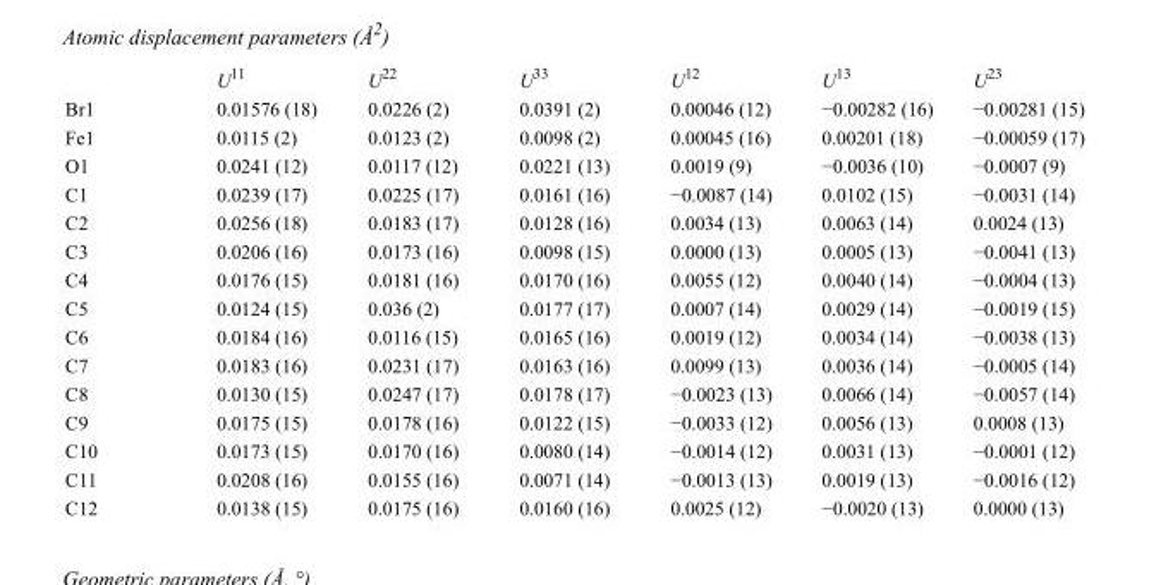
<table><thead><tr><td></td><td>U<sup>11</sup></td><td>U<sup>22</sup></td><td>U<sup>33</sup></td><td>U<sup>12</sup></td><td>U<sup>13</sup></td><td>U<sup>23</sup></td></tr></thead><tbody><tr><td>Br1</td><td>0.01576 (18)</td><td>0.0226 (2)</td><td>0.0391 (2)</td><td>0.00046 (12)</td><td>−0.00282 (16)</td><td>−0.00281 (15)</td></tr><tr><td>Fe1</td><td>0.0115 (2)</td><td>0.0123 (2)</td><td>0.0098 (2)</td><td>0.00045 (16)</td><td>0.00201 (18)</td><td>−0.00059 (17)</td></tr><tr><td>O1</td><td>0.0241 (12)</td><td>0.0117 (12)</td><td>0.0221 (13)</td><td>0.0019 (9)</td><td>−0.0036 (10)</td><td>−0.0007 (9)</td></tr><tr><td>C1</td><td>0.0239 (17)</td><td>0.0225 (17)</td><td>0.0161 (16)</td><td>−0.0087 (14)</td><td>0.0102 (15)</td><td>−0.0031 (14)</td></tr><tr><td>C2</td><td>0.0256 (18)</td><td>0.0183 (17)</td><td>0.0128 (16)</td><td>0.0034 (13)</td><td>0.0063 (14)</td><td>0.0024 (13)</td></tr><tr><td>C3</td><td>0.0206 (16)</td><td>0.0173 (16)</td><td>0.0098 (15)</td><td>0.0000 (13)</td><td>0.0005 (13)</td><td>−0.0041 (13)</td></tr><tr><td>C4</td><td>0.0176 (15)</td><td>0.0181 (16)</td><td>0.0170 (16)</td><td>0.0055 (12)</td><td>0.0040 (14)</td><td>−0.0004 (13)</td></tr><tr><td>C5</td><td>0.0124 (15)</td><td>0.036 (2)</td><td>0.0177 (17)</td><td>0.0007 (14)</td><td>0.0029 (14)</td><td>−0.0019 (15)</td></tr><tr><td>C6</td><td>0.0184 (16)</td><td>0.0116 (15)</td><td>0.0165 (16)</td><td>0.0019 (12)</td><td>0.0034 (14)</td><td>−0.0038 (13)</td></tr><tr><td>C7</td><td>0.0183 (16)</td><td>0.0231 (17)</td><td>0.0163 (16)</td><td>0.0099 (13)</td><td>0.0036 (14)</td><td>−0.0005 (14)</td></tr><tr><td>C8</td><td>0.0130 (15)</td><td>0.0247 (17)</td><td>0.0178 (17)</td><td>−0.0023 (13)</td><td>0.0066 (14)</td><td>−0.0057 (14)</td></tr><tr><td>C9</td><td>0.0175 (15)</td><td>0.0178 (16)</td><td>0.0122 (15)</td><td>−0.0033 (12)</td><td>0.0056 (13)</td><td>0.0008 (13)</td></tr><tr><td>C10</td><td>0.0173 (15)</td><td>0.0170 (16)</td><td>0.0080 (14)</td><td>−0.0014 (12)</td><td>0.0031 (13)</td><td>−0.0001 (12)</td></tr><tr><td>C11</td><td>0.0208 (16)</td><td>0.0155 (16)</td><td>0.0071 (14)</td><td>−0.0013 (13)</td><td>0.0019 (13)</td><td>−0.0016 (12)</td></tr><tr><td>C12</td><td>0.0138 (15)</td><td>0.0175 (16)</td><td>0.0160 (16)</td><td>0.0025 (12)</td><td>−0.0020 (13)</td><td>0.0000 (13)</td></tr></tbody></table>